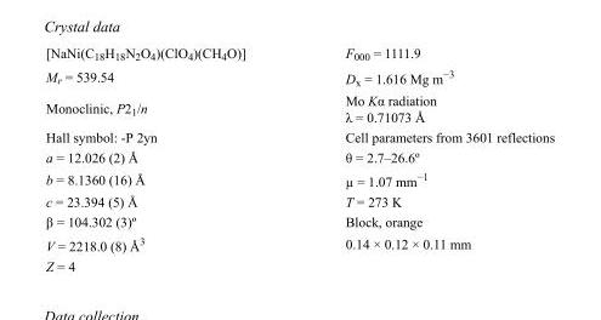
<table><tbody><tr><td>[NaNi(C<sub>18</sub>H<sub>18</sub>N<sub>2</sub>O<sub>4</sub>)(ClO<sub>4</sub>)(CH<sub>4</sub>O)]</td><td>F000 = 1111.9</td></tr><tr><td>M<sub>r</sub> = 539.54</td><td>D<sub>x</sub> = 1.616 Mg m<sup>−3</sup></td></tr><tr><td>Monoclinic, P2<sub>1</sub>/n</td><td>Mo Kα radiation λ = 0.71073 Å</td></tr><tr><td>Hall symbol: -P 2yn</td><td>Cell parameters from 3601 reflections</td></tr><tr><td>a = 12.026 (2) Å</td><td>θ = 2.7–26.6º</td></tr><tr><td>b = 8.1360 (16) Å</td><td>µ = 1.07 mm<sup>−1</sup></td></tr><tr><td>c = 23.394 (5) Å</td><td>T = 273 K</td></tr><tr><td>β = 104.302 (3)º</td><td>Block, orange</td></tr><tr><td>V = 2218.0 (8) Å<sup>3</sup></td><td>0.14 × 0.12 × 0.11 mm</td></tr><tr><td>Z = 4</td><td></td></tr></tbody></table>